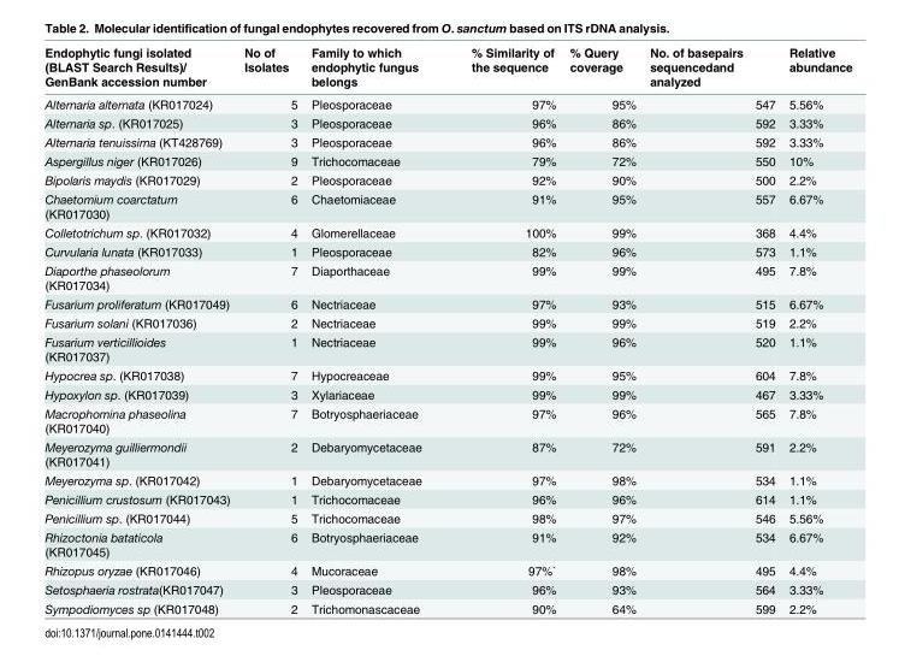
<table><thead><tr><td>Endophytic fungi isolated (BLAST Search Results)/ GenBank accession number</td><td>No of Isolates</td><td>Family to which endophytic fungus belongs</td><td>% Similarity of the sequence</td><td>% Query coverage</td><td>No. of basepairs sequencedand analyzed</td><td>Relative abundance</td></tr></thead><tbody><tr><td>Alternaria alternata (KR017024)</td><td>5</td><td>Pleosporaceae</td><td>97%</td><td>95%</td><td>547</td><td>5.56%</td></tr><tr><td>Alternaria sp. (KR017025)</td><td>3</td><td>Pleosporaceae</td><td>96%</td><td>86%</td><td>592</td><td>3.33%</td></tr><tr><td>Alternaria tenuissima (KT428769)</td><td>3</td><td>Pleosporaceae</td><td>96%</td><td>86%</td><td>592</td><td>3.33%</td></tr><tr><td>Aspergillus niger (KR017026)</td><td>9</td><td>Trichocomaceae</td><td>79%</td><td>72%</td><td>550</td><td>10%</td></tr><tr><td>Bipolaris maydis (KR017029)</td><td>2</td><td>Pleosporaceae</td><td>92%</td><td>90%</td><td>500</td><td>2.2%</td></tr><tr><td>Chaetomium coarctatum (KR017030)</td><td>6</td><td>Chaetomiaceae</td><td>91%</td><td>95%</td><td>557</td><td>6.67%</td></tr><tr><td>Colletotrichum sp. (KR017032)</td><td>4</td><td>Glomerellaceae</td><td>100%</td><td>99%</td><td>368</td><td>4.4%</td></tr><tr><td>Curvularia lunata (KR017033)</td><td>1</td><td>Pleosporaceae</td><td>82%</td><td>96%</td><td>573</td><td>1.1%</td></tr><tr><td>Diaporthe phaseolorum (KR017034)</td><td>7</td><td>Diaporthaceae</td><td>99%</td><td>99%</td><td>495</td><td>7.8%</td></tr><tr><td>Fusarium proliferatum (KR017049)</td><td>6</td><td>Nectriaceae</td><td>97%</td><td>93%</td><td>515</td><td>6.67%</td></tr><tr><td>Fusarium solani (KR017036)</td><td>2</td><td>Nectriaceae</td><td>99%</td><td>99%</td><td>519</td><td>2.2%</td></tr><tr><td>Fusarium verticillioides (KR017037)</td><td>1</td><td>Nectriaceae</td><td>99%</td><td>96%</td><td>520</td><td>1.1%</td></tr><tr><td>Hypocrea sp. (KR017038)</td><td>7</td><td>Hypocreaceae</td><td>99%</td><td>95%</td><td>604</td><td>7.8%</td></tr><tr><td>Hypoxylon sp. (KR017039)</td><td>3</td><td>Xylariaceae</td><td>99%</td><td>99%</td><td>467</td><td>3.33%</td></tr><tr><td>Macrophomina phaseolina (KR017040)</td><td>7</td><td>Botryosphaeriaceae</td><td>97%</td><td>96%</td><td>565</td><td>7.8%</td></tr><tr><td>Meyerozyma guilliermondii (KR017041)</td><td>2</td><td>Debaryomycetaceae</td><td>87%</td><td>72%</td><td>591</td><td>2.2%</td></tr><tr><td>Meyerozyma sp. (KR017042)</td><td>1</td><td>Debaryomycetaceae</td><td>97%</td><td>98%</td><td>534</td><td>1.1%</td></tr><tr><td>Penicillium crustosum (KR017043)</td><td>1</td><td>Trichocomaceae</td><td>96%</td><td>96%</td><td>614</td><td>1.1%</td></tr><tr><td>Penicillium sp. (KR017044)</td><td>5</td><td>Trichocomaceae</td><td>98%</td><td>97%</td><td>546</td><td>5.56%</td></tr><tr><td>Rhizoctonia bataticola (KR017045)</td><td>6</td><td>Botryosphaeriaceae</td><td>91%</td><td>92%</td><td>534</td><td>6.67%</td></tr><tr><td>Rhizopus oryzae (KR017046)</td><td>4</td><td>Mucoraceae</td><td>97%`</td><td>98%</td><td>495</td><td>4.4%</td></tr><tr><td>Setosphaeria rostrata(KR017047)</td><td>3</td><td>Pleosporaceae</td><td>96%</td><td>93%</td><td>564</td><td>3.33%</td></tr><tr><td>Sympodiomyces sp (KR017048)</td><td>2</td><td>Trichomonascaceae</td><td>90%</td><td>64%</td><td>599</td><td>2.2%</td></tr></tbody></table>